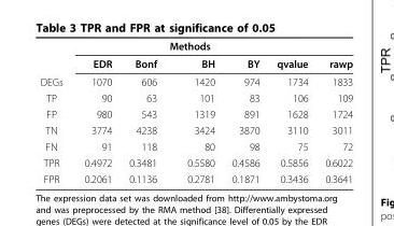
<table><thead><tr><td></td><td></td><td></td><td>Methods</td><td></td><td></td><td></td></tr></thead><tbody><tr><td></td><td>EDR</td><td>Bonf</td><td>BH</td><td>BY</td><td>qvalue</td><td>rawp</td></tr><tr><td>DEGs</td><td>1070</td><td>606</td><td>1420</td><td>974</td><td>1734</td><td>1833</td></tr><tr><td>TP</td><td>90</td><td>63</td><td>101</td><td>83</td><td>106</td><td>109</td></tr><tr><td>FP</td><td>980</td><td>543</td><td>1319</td><td>891</td><td>1628</td><td>1724</td></tr><tr><td>TN</td><td>3774</td><td>4238</td><td>3424</td><td>3870</td><td>3110</td><td>3011</td></tr><tr><td>FN</td><td>91</td><td>118</td><td>80</td><td>98</td><td>75</td><td>72</td></tr><tr><td>TPR</td><td>0.4972</td><td>0.3481</td><td>0.5580</td><td>0.4586</td><td>0.5856</td><td>0.6022</td></tr><tr><td>FPR</td><td>0.2061</td><td>0.1136</td><td>0.2781</td><td>0.1871</td><td>0.3436</td><td>0.3641</td></tr></tbody></table>